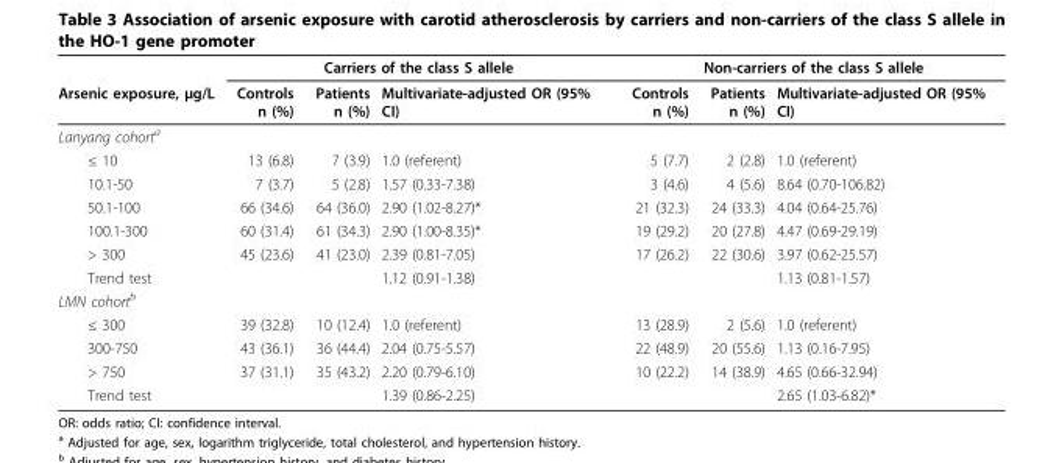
<table><thead><tr><td rowspan="2">Arsenic exposure, μg/L</td><td colspan="3">Carriers of the class S allele</td><td colspan="3">Non-carriers of the class S allele</td></tr><tr><td>Controls n (%)</td><td>Patients n (%)</td><td>Multivariate-adjusted OR (95% CI)</td><td>Controls n (%)</td><td>Patients n (%)</td><td>Multivariate-adjusted OR (95% CI)</td></tr></thead><tbody><tr><td colspan="7">Lanyang cohort<sup>a</sup></td></tr><tr><td>≤ 10</td><td>13 (6.8)</td><td>7 (3.9)</td><td>1.0 (referent)</td><td>5 (7.7)</td><td>2 (2.8)</td><td>1.0 (referent)</td></tr><tr><td>10.1-50</td><td>7 (3.7)</td><td>5 (2.8)</td><td>1.57 (0.33-7.38)</td><td>3 (4.6)</td><td>4 (5.6)</td><td>8.64 (0.70-106.82)</td></tr><tr><td>50.1-100</td><td>66 (34.6)</td><td>64 (36.0)</td><td>2.90 (1.02-8.27)*</td><td>21 (32.3)</td><td>24 (33.3)</td><td>4.04 (0.64-25.76)</td></tr><tr><td>100.1-300</td><td>60 (31.4)</td><td>61 (34.3)</td><td>2.90 (1.00-8.35)*</td><td>19 (29.2)</td><td>20 (27.8)</td><td>4.47 (0.69-29.19)</td></tr><tr><td>&gt; 300</td><td>45 (23.6)</td><td>41 (23.0)</td><td>2.39 (0.81-7.05)</td><td>17 (26.2)</td><td>22 (30.6)</td><td>3.97 (0.62-25.57)</td></tr><tr><td>Trend test</td><td></td><td></td><td>1.12 (0.91-1.38)</td><td></td><td></td><td>1.13 (0.81-1.57)</td></tr><tr><td colspan="7">LMN cohort<sup>b</sup></td></tr><tr><td>≤ 300</td><td>39 (32.8)</td><td>10 (12.4)</td><td>1.0 (referent)</td><td>13 (28.9)</td><td>2 (5.6)</td><td>1.0 (referent)</td></tr><tr><td>300-750</td><td>43 (36.1)</td><td>36 (44.4)</td><td>2.04 (0.75-5.57)</td><td>22 (48.9)</td><td>20 (55.6)</td><td>1.13 (0.16-7.95)</td></tr><tr><td>&gt; 750</td><td>37 (31.1)</td><td>35 (43.2)</td><td>2.20 (0.79-6.10)</td><td>10 (22.2)</td><td>14 (38.9)</td><td>4.65 (0.66-32.94)</td></tr><tr><td>Trend test</td><td></td><td></td><td>1.39 (0.86-2.25)</td><td></td><td></td><td>2.65 (1.03-6.82)*</td></tr></tbody></table>